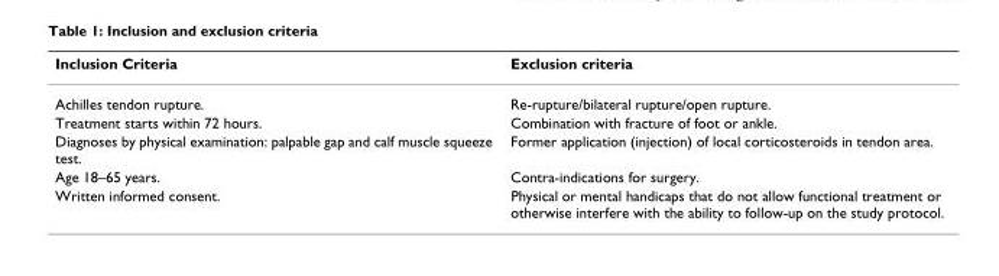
<table><thead><tr><td>Inclusion Criteria</td><td>Exclusion criteria</td></tr></thead><tbody><tr><td>Achilles tendon rupture.</td><td>Re-rupture/bilateral rupture/open rupture.</td></tr><tr><td>Treatment starts within 72 hours.</td><td>Combination with fracture of foot or ankle.</td></tr><tr><td>Diagnoses by physical examination: palpable gap and calf muscle squeeze test.</td><td>Former application (injection) of local corticosteroids in tendon area.</td></tr><tr><td>Age 18–65 years.</td><td>Contra-indications for surgery.</td></tr><tr><td>Written informed consent.</td><td>Physical or mental handicaps that do not allow functional treatment or otherwise interfere with the ability to follow-up on the study protocol.</td></tr></tbody></table>